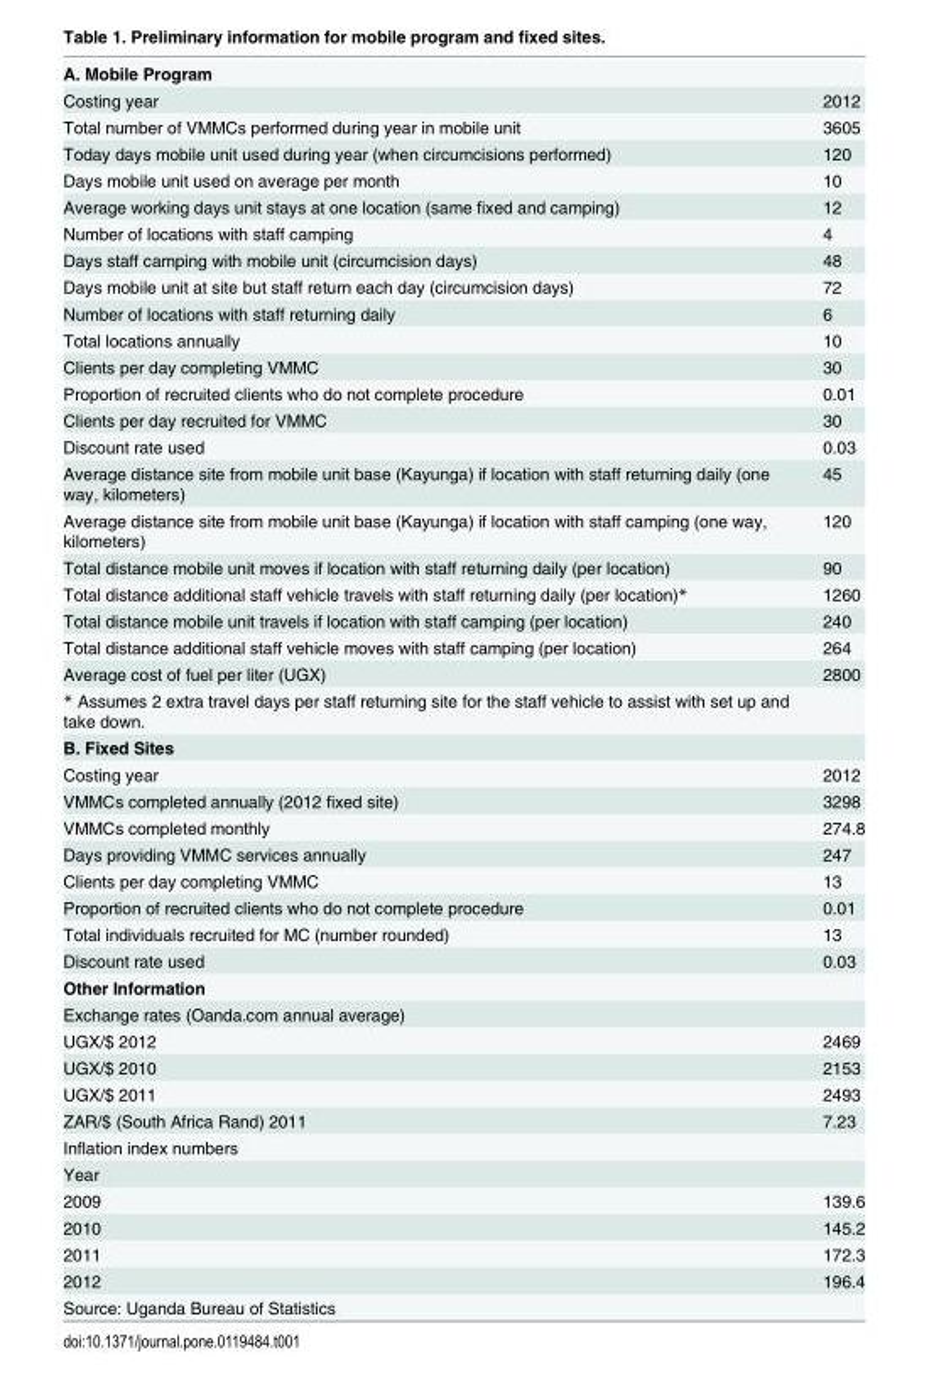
<table><tbody><tr><td colspan="2">A. Mobile Program</td></tr><tr><td>Costing year</td><td>2012</td></tr><tr><td>Total number of VMMCs performed during year in mobile unit</td><td>3605</td></tr><tr><td>Today days mobile unit used during year (when circumcisions performed)</td><td>120</td></tr><tr><td>Days mobile unit used on average per month</td><td>10</td></tr><tr><td>Average working days unit stays at one location (same fixed and camping)</td><td>12</td></tr><tr><td>Number of locations with staff camping</td><td>4</td></tr><tr><td>Days staff camping with mobile unit (circumcision days)</td><td>48</td></tr><tr><td>Days mobile unit at site but staff return each day (circumcision days)</td><td>72</td></tr><tr><td>Number of locations with staff returning daily</td><td>6</td></tr><tr><td>Total locations annually</td><td>10</td></tr><tr><td>Clients per day completing VMMC</td><td>30</td></tr><tr><td>Proportion of recruited clients who do not complete procedure</td><td>0.01</td></tr><tr><td>Clients per day recruited for VMMC</td><td>30</td></tr><tr><td>Discount rate used</td><td>0.03</td></tr><tr><td>Average distance site from mobile unit base (Kayunga) if location with staff returning daily (one way, kilometers)</td><td>45</td></tr><tr><td>Average distance site from mobile unit base (Kayunga) if location with staff camping (one way, kilometers)</td><td>120</td></tr><tr><td>Total distance mobile unit moves if location with staff returning daily (per location)</td><td>90</td></tr><tr><td>Total distance additional staff vehicle travels with staff returning daily (per location)*</td><td>1260</td></tr><tr><td>Total distance mobile unit travels if location with staff camping (per location)</td><td>240</td></tr><tr><td>Total distance additional staff vehicle moves with staff camping (per location)</td><td>264</td></tr><tr><td>Average cost of fuel per liter (UGX)</td><td>2800</td></tr><tr><td colspan="2">* Assumes 2 extra travel days per staff returning site for the staff vehicle to assist with set up and take down.</td></tr><tr><td colspan="2">B. Fixed Sites</td></tr><tr><td>Costing year</td><td>2012</td></tr><tr><td>VMMCs completed annually (2012 fixed site)</td><td>3298</td></tr><tr><td>VMMCs completed monthly</td><td>274.8</td></tr><tr><td>Days providing VMMC services annually</td><td>247</td></tr><tr><td>Clients per day completing VMMC</td><td>13</td></tr><tr><td>Proportion of recruited clients who do not complete procedure</td><td>0.01</td></tr><tr><td>Total individuals recruited for MC (number rounded)</td><td>13</td></tr><tr><td>Discount rate used</td><td>0.03</td></tr><tr><td colspan="2">Other Information</td></tr><tr><td colspan="2">Exchange rates (Oanda.com annual average)</td></tr><tr><td>UGX/$ 2012</td><td>2469</td></tr><tr><td>UGX/$ 2010</td><td>2153</td></tr><tr><td>UGX/$ 2011</td><td>2493</td></tr><tr><td>ZAR/$ (South Africa Rand) 2011</td><td>7.23</td></tr><tr><td colspan="2">Inflation index numbers</td></tr><tr><td colspan="2">Year</td></tr><tr><td>2009</td><td>139.6</td></tr><tr><td>2010</td><td>145.2</td></tr><tr><td>2011</td><td>172.3</td></tr><tr><td>2012</td><td>196.4</td></tr><tr><td>Source: Uganda Bureau of Statistics</td><td></td></tr></tbody></table>